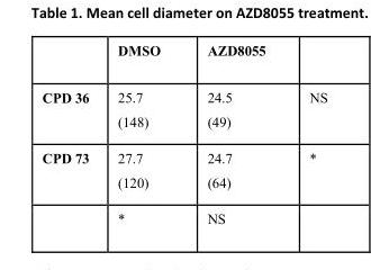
<table><thead><tr><td></td><td>DMSO</td><td>AZD8055</td><td></td></tr></thead><tbody><tr><td>CPD 36</td><td>25.7 (148)</td><td>24.5 (49)</td><td>NS</td></tr><tr><td rowspan="2">CPD 73</td><td>27.7 (120)</td><td>24.7 (64)</td><td>*</td></tr><tr><td>*</td><td>NS</td><td></td></tr></tbody></table>